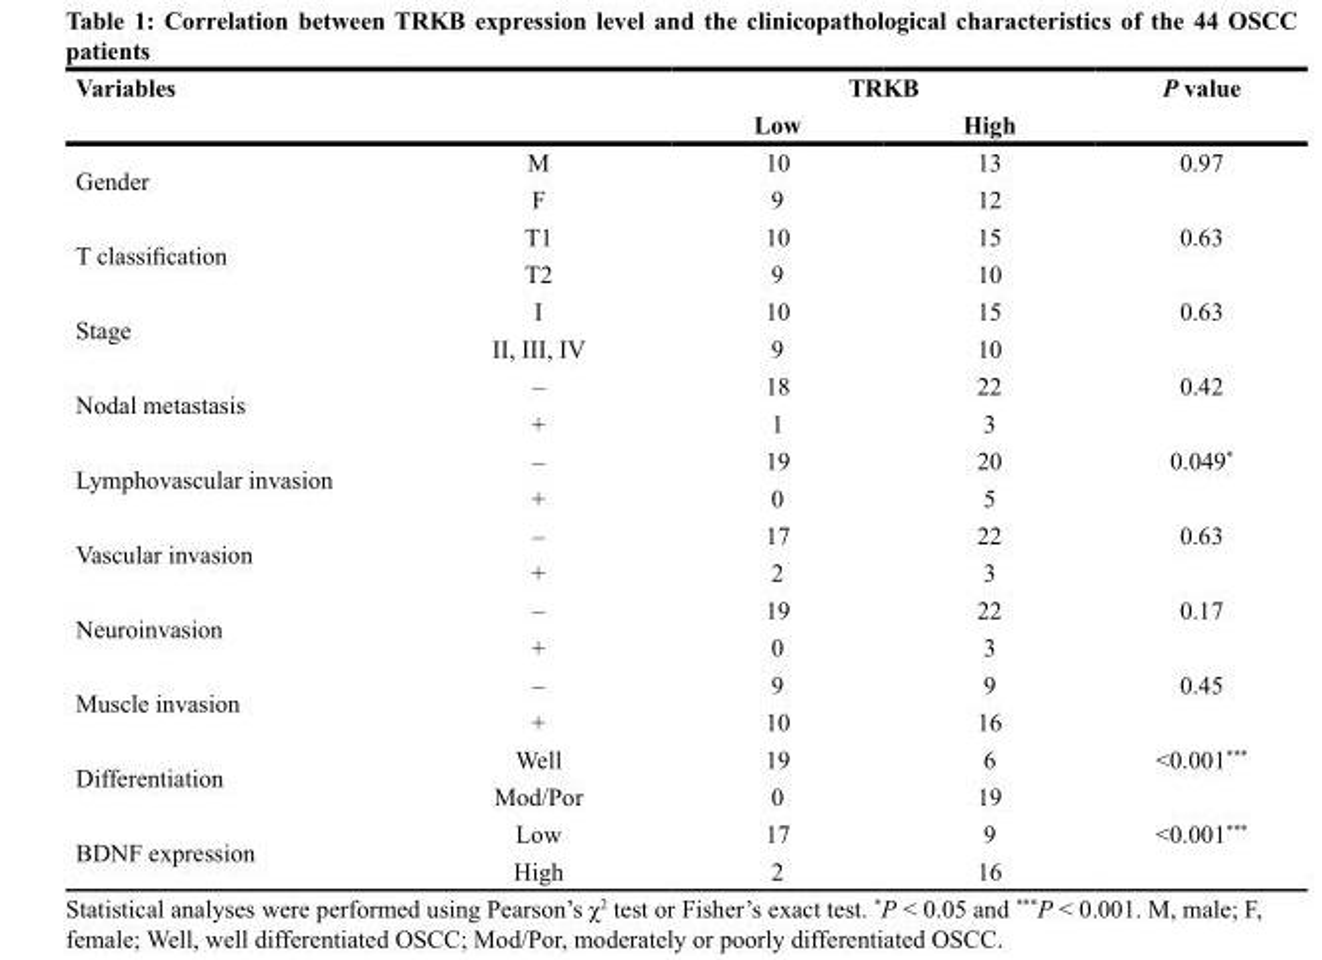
<table><thead><tr><td rowspan="2">Variables</td><td rowspan="2"></td><td colspan="2">TRKB</td><td rowspan="2">P value</td></tr><tr><td>Low</td><td>High</td></tr></thead><tbody><tr><td rowspan="2">Gender</td><td>M</td><td>10</td><td>13</td><td>0.97</td></tr><tr><td>F</td><td>9</td><td>12</td><td></td></tr><tr><td rowspan="2">T classification</td><td>T1</td><td>10</td><td>15</td><td>0.63</td></tr><tr><td>T2</td><td>9</td><td>10</td><td></td></tr><tr><td rowspan="2">Stage</td><td>I</td><td>10</td><td>15</td><td>0.63</td></tr><tr><td>II, III, IV</td><td>9</td><td>10</td><td></td></tr><tr><td rowspan="2">Nodal metastasis</td><td>–</td><td>18</td><td>22</td><td>0.42</td></tr><tr><td>+</td><td>1</td><td>3</td><td></td></tr><tr><td rowspan="2">Lymphovascular invasion</td><td>–</td><td>19</td><td>20</td><td>0.049*</td></tr><tr><td>+</td><td>0</td><td>5</td><td></td></tr><tr><td rowspan="2">Vascular invasion</td><td>–</td><td>17</td><td>22</td><td>0.63</td></tr><tr><td>+</td><td>2</td><td>3</td><td></td></tr><tr><td rowspan="2">Neuroinvasion</td><td>–</td><td>19</td><td>22</td><td>0.17</td></tr><tr><td>+</td><td>0</td><td>3</td><td></td></tr><tr><td rowspan="2">Muscle invasion</td><td>–</td><td>9</td><td>9</td><td>0.45</td></tr><tr><td>+</td><td>10</td><td>16</td><td></td></tr><tr><td rowspan="2">Differentiation</td><td>Well</td><td>19</td><td>6</td><td>&lt;0.001***</td></tr><tr><td>Mod/Por</td><td>0</td><td>19</td><td></td></tr><tr><td rowspan="2">BDNF expression</td><td>Low</td><td>17</td><td>9</td><td>&lt;0.001***</td></tr><tr><td>High</td><td>2</td><td>16</td><td></td></tr></tbody></table>